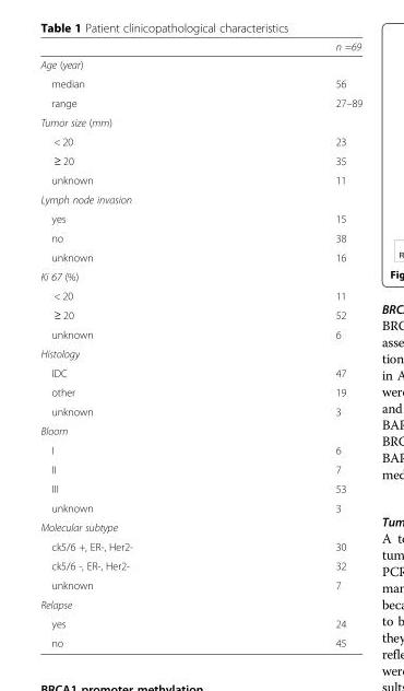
<table><thead><tr><td></td><td>n =69</td></tr></thead><tbody><tr><td colspan="2">Age (year)</td></tr><tr><td>median</td><td>56</td></tr><tr><td>range</td><td>27–89</td></tr><tr><td colspan="2">Tumor size (mm)</td></tr><tr><td>&lt; 20</td><td>23</td></tr><tr><td>≥ 20</td><td>35</td></tr><tr><td>unknown</td><td>11</td></tr><tr><td colspan="2">Lymph node invasion</td></tr><tr><td>yes</td><td>15</td></tr><tr><td>no</td><td>38</td></tr><tr><td>unknown</td><td>16</td></tr><tr><td colspan="2">Ki 67 (%)</td></tr><tr><td>&lt; 20</td><td>11</td></tr><tr><td>≥ 20</td><td>52</td></tr><tr><td>unknown</td><td>6</td></tr><tr><td colspan="2">Histology</td></tr><tr><td>IDC</td><td>47</td></tr><tr><td>other</td><td>19</td></tr><tr><td>unknown</td><td>3</td></tr><tr><td colspan="2">Bloom</td></tr><tr><td>I</td><td>6</td></tr><tr><td>II</td><td>7</td></tr><tr><td>III</td><td>53</td></tr><tr><td>unknown</td><td>3</td></tr><tr><td colspan="2">Molecular subtype</td></tr><tr><td>ck5/6 +, ER-, Her2-</td><td>30</td></tr><tr><td>ck5/6 -, ER-, Her2-</td><td>32</td></tr><tr><td>unknown</td><td>7</td></tr><tr><td colspan="2">Relapse</td></tr><tr><td>yes</td><td>24</td></tr><tr><td>no</td><td>45</td></tr></tbody></table>